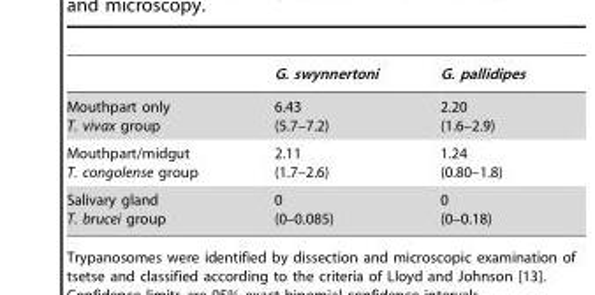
<table><thead><tr><td></td><td>G. swynnertoni</td><td>G. pallidipes</td></tr></thead><tbody><tr><td>Mouthpart only T. vivax group</td><td>6.43 (5.7–7.2)</td><td>2.20 (1.6–2.9)</td></tr><tr><td>Mouthpart/midgut T. congolense group</td><td>2.11 (1.7–2.6)</td><td>1.24 (0.80–1.8)</td></tr><tr><td>Salivary gland T. brucei group</td><td>0 (0–0.085)</td><td>0 (0–0.18)</td></tr></tbody></table>